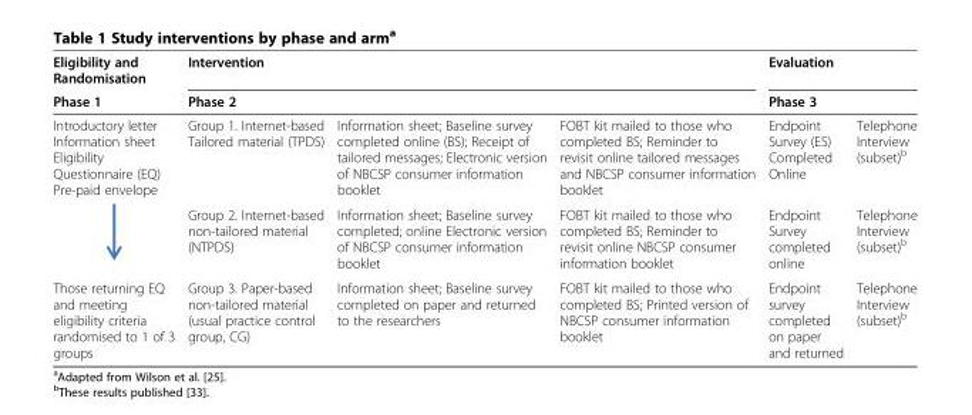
<table><thead><tr><td rowspan="3">Eligibility and Randomisation Phase 1 Introductory letter Information sheet Eligibility Questionnaire (EQ) Pre-paid envelope</td><td rowspan="2" colspan="3">Intervention Phase 2</td><td rowspan="2" colspan="2">Evaluation Phase 3</td></tr><tr></tr><tr><td>Group 1. Internet-based Tailored material (TPDS)</td><td>Information sheet; Baseline survey completed online (BS); Receipt of tailored messages; Electronic version of NBCSP consumer information booklet</td><td>FOBT kit mailed to those who completed BS; Reminder to revisit online tailored messages and NBCSP consumer information booklet</td><td>Endpoint Survey (ES) Completed Online</td><td>Telephone Interview (subset)<sup>b</sup></td></tr></thead><tbody><tr><td></td><td>Group 2. Internet-based non-tailored material (NTPDS)</td><td>Information sheet; Baseline survey completed; online Electronic version of NBCSP consumer information booklet</td><td>FOBT kit mailed to those who completed BS; Reminder to revisit online NBCSP consumer information booklet</td><td>Endpoint Survey completed online</td><td>Telephone Interview (subset)<sup>b</sup></td></tr><tr><td>Those returning EQ and meeting eligibility criteria randomised to 1 of 3 groups</td><td>Group 3. Paper-based non-tailored material (usual practice control group, CG)</td><td>Information sheet; Baseline survey completed on paper and returned to the researchers</td><td>FOBT kit mailed to those who completed BS; Printed version of NBCSP consumer information booklet</td><td>Endpoint survey completed on paper and returned</td><td>Telephone Interview (subset)<sup>b</sup></td></tr></tbody></table>